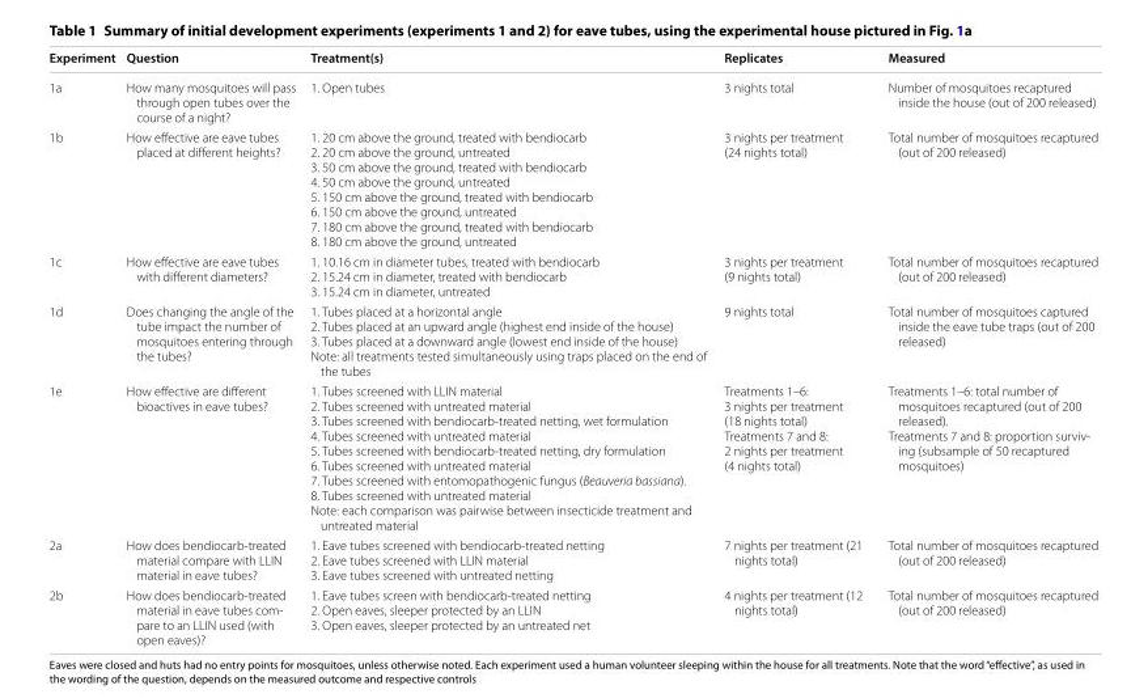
<table><thead><tr><td>Experiment</td><td>Question</td><td>Treatment(s)</td><td>Replicates</td><td>Measured</td></tr></thead><tbody><tr><td>1a</td><td>How many mosquitoes will pass through open tubes over the course of a night?</td><td>1. Open tubes</td><td>3 nights total</td><td>Number of mosquitoes recaptured inside the house (out of 200 released)</td></tr><tr><td>1b</td><td>How effective are eave tubes placed at different heights?</td><td>1. 20 cm above the ground, treated with bendiocarb 2. 20 cm above the ground, untreated 3. 50 cm above the ground, treated with bendiocarb 4. 50 cm above the ground, untreated 5. 150 cm above the ground, treated with bendiocarb 6. 150 cm above the ground, untreated 7. 180 cm above the ground, treated with bendiocarb 8. 180 cm above the ground, untreated</td><td>3 nights per treatment (24 nights total)</td><td>Total number of mosquitoes recaptured (out of 200 released)</td></tr><tr><td>1c</td><td>How effective are eave tubes with different diameters?</td><td>1. 10.16 cm in diameter tubes, treated with bendiocarb 2. 15.24 cm in diameter, treated with bendiocarb 3. 15.24 cm in diameter, untreated</td><td>3 nights per treatment (9 nights total)</td><td>Total number of mosquitoes recaptured (out of 200 released)</td></tr><tr><td>1d</td><td>Does changing the angle of the tube impact the number of mosquitoes entering through the tubes?</td><td>1. Tubes placed at a horizontal angle 2. Tubes placed at an upward angle (highest end inside of the house) 3. Tubes placed at a downward angle (lowest end inside of the house) Note: all treatments tested simultaneously using traps placed on the end of the tubes</td><td>9 nights total</td><td>Total number of mosquitoes captured inside the eave tube traps (out of 200 released)</td></tr><tr><td>1e</td><td>How effective are different bioactives in eave tubes?</td><td>1. Tubes screened with LLIN material 2. Tubes screened with untreated material 3. Tubes screened with bendiocarb-treated netting, wet formulation 4. Tubes screened with untreated material 5. Tubes screened with bendiocarb-treated netting, dry formulation 6. Tubes screened with untreated material 7. Tubes screened with entomopathogenic fungus (Beauveria bassiana). 8. Tubes screened with untreated material Note: each comparison was pairwise between insecticide treatment and untreated material</td><td>Treatments 1–6: 3 nights per treatment (18 nights total) Treatments 7 and 8: 2 nights per treatment (4 nights total)</td><td>Treatments 1–6: total number of mosquitoes recaptured (out of 200 released). Treatments 7 and 8: proportion surviv- ing (subsample of 50 recaptured mosquitoes)</td></tr><tr><td>2a</td><td>How does bendiocarb-treated material compare with LLIN material in eave tubes?</td><td>1. Eave tubes screened with bendiocarb-treated netting 2. Eave tubes screened with LLIN material 3. Eave tubes screened with untreated netting</td><td>7 nights per treatment (21 nights total)</td><td>Total number of mosquitoes recaptured (out of 200 released)</td></tr><tr><td>2b</td><td>How does bendiocarb-treated material in eave tubes com- pare to an LLIN used (with open eaves)?</td><td>1. Eave tubes screen with bendiocarb-treated netting 2. Open eaves, sleeper protected by an LLIN 3. Open eaves, sleeper protected by an untreated net</td><td>4 nights per treatment (12 nights total)</td><td>Total number of mosquitoes recaptured (out of 200 released)</td></tr></tbody></table>